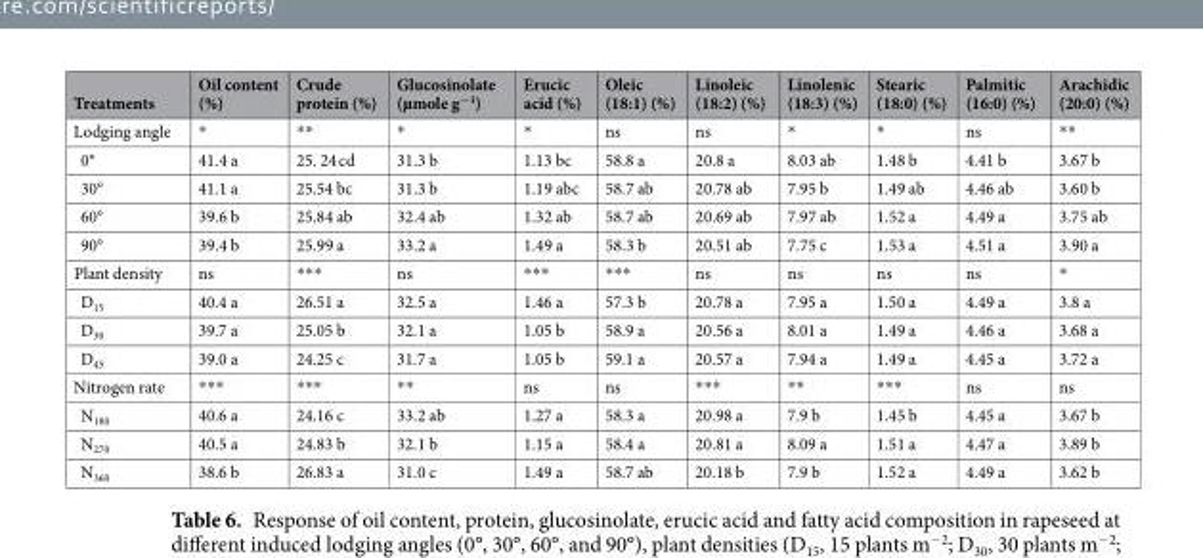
<table><thead><tr><td>Treatments</td><td>Oil content (%)</td><td>Crude protein (%)</td><td>Glucosinolate (µmole g<sup>−1</sup>)</td><td>Erucic acid (%)</td><td>Oleic (18:1) (%)</td><td>Linoleic (18:2) (%)</td><td>Linolenic (18:3) (%)</td><td>Stearic (18:0) (%)</td><td>Palmitic (16:0) (%)</td><td>Arachidic (20:0) (%)</td></tr></thead><tbody><tr><td>Lodging angle</td><td>*</td><td>**</td><td>*</td><td>*</td><td>ns</td><td>ns</td><td>*</td><td>*</td><td>ns</td><td>**</td></tr><tr><td>0°</td><td>41.4 a</td><td>25. 24 cd</td><td>31.3 b</td><td>1.13 bc</td><td>58.8 a</td><td>20.8 a</td><td>8.03 ab</td><td>1.48 b</td><td>4.41 b</td><td>3.67 b</td></tr><tr><td>30°</td><td>41.1 a</td><td>25.54 bc</td><td>31.3 b</td><td>1.19 abc</td><td>58.7 ab</td><td>20.78 ab</td><td>7.95 b</td><td>1.49 ab</td><td>4.46 ab</td><td>3.60 b</td></tr><tr><td>60°</td><td>39.6 b</td><td>25.84 ab</td><td>32.4 ab</td><td>1.32 ab</td><td>58.7 ab</td><td>20.69 ab</td><td>7.97 ab</td><td>1.52 a</td><td>4.49 a</td><td>3.75 ab</td></tr><tr><td>90°</td><td>39.4 b</td><td>25.99 a</td><td>33.2 a</td><td>1.49 a</td><td>58.3 b</td><td>20.51 ab</td><td>7.75 c</td><td>1.53 a</td><td>4.51 a</td><td>3.90 a</td></tr><tr><td>Plant density</td><td>ns</td><td>***</td><td>ns</td><td>***</td><td>***</td><td>ns</td><td>ns</td><td>ns</td><td>ns</td><td>*</td></tr><tr><td>D<sub>15</sub></td><td>40.4 a</td><td>26.51 a</td><td>32.5 a</td><td>1.46 a</td><td>57.3 b</td><td>20.78 a</td><td>7.95 a</td><td>1.50 a</td><td>4.49 a</td><td>3.8 a</td></tr><tr><td>D<sub>30</sub></td><td>39.7 a</td><td>25.05 b</td><td>32.1 a</td><td>1.05 b</td><td>58.9 a</td><td>20.56 a</td><td>8.01 a</td><td>1.49 a</td><td>4.46 a</td><td>3.68 a</td></tr><tr><td>D<sub>45</sub></td><td>39.0 a</td><td>24.25 c</td><td>31.7 a</td><td>1.05 b</td><td>59.1 a</td><td>20.57 a</td><td>7.94 a</td><td>1.49 a</td><td>4.45 a</td><td>3.72 a</td></tr><tr><td>Nitrogen rate</td><td>***</td><td>***</td><td>**</td><td>ns</td><td>ns</td><td>***</td><td>**</td><td>***</td><td>ns</td><td>ns</td></tr><tr><td>N<sub>180</sub></td><td>40.6 a</td><td>24.16 c</td><td>33.2 ab</td><td>1.27 a</td><td>58.3 a</td><td>20.98 a</td><td>7.9 b</td><td>1.45 b</td><td>4.45 a</td><td>3.67 b</td></tr><tr><td>N<sub>270</sub></td><td>40.5 a</td><td>24.83 b</td><td>32.1 b</td><td>1.15 a</td><td>58.4 a</td><td>20.81 a</td><td>8.09 a</td><td>1.51 a</td><td>4.47 a</td><td>3.89 b</td></tr><tr><td>N<sub>360</sub></td><td>38.6 b</td><td>26.83 a</td><td>31.0 c</td><td>1.49 a</td><td>58.7 ab</td><td>20.18 b</td><td>7.9 b</td><td>1.52 a</td><td>4.49 a</td><td>3.62 b</td></tr></tbody></table>